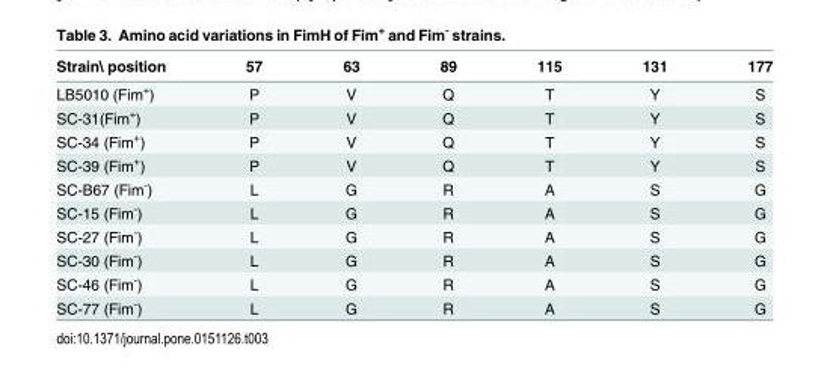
<table><thead><tr><td>Strain\ position</td><td>57</td><td>63</td><td>89</td><td>115</td><td>131</td><td>177</td></tr></thead><tbody><tr><td>LB5010 (Fim<sup>+</sup>)</td><td>P</td><td>V</td><td>Q</td><td>T</td><td>Y</td><td>S</td></tr><tr><td>SC-31(Fim<sup>+</sup>)</td><td>P</td><td>V</td><td>Q</td><td>T</td><td>Y</td><td>S</td></tr><tr><td>SC-34 (Fim<sup>+</sup>)</td><td>P</td><td>V</td><td>Q</td><td>T</td><td>Y</td><td>S</td></tr><tr><td>SC-39 (Fim<sup>+</sup>)</td><td>P</td><td>V</td><td>Q</td><td>T</td><td>Y</td><td>S</td></tr><tr><td>SC-B67 (Fim<sup>-</sup>)</td><td>L</td><td>G</td><td>R</td><td>A</td><td>S</td><td>G</td></tr><tr><td>SC-15 (Fim<sup>-</sup>)</td><td>L</td><td>G</td><td>R</td><td>A</td><td>S</td><td>G</td></tr><tr><td>SC-27 (Fim<sup>-</sup>)</td><td>L</td><td>G</td><td>R</td><td>A</td><td>S</td><td>G</td></tr><tr><td>SC-30 (Fim<sup>-</sup>)</td><td>L</td><td>G</td><td>R</td><td>A</td><td>S</td><td>G</td></tr><tr><td>SC-46 (Fim<sup>-</sup>)</td><td>L</td><td>G</td><td>R</td><td>A</td><td>S</td><td>G</td></tr><tr><td>SC-77 (Fim<sup>-</sup>)</td><td>L</td><td>G</td><td>R</td><td>A</td><td>S</td><td>G</td></tr></tbody></table>